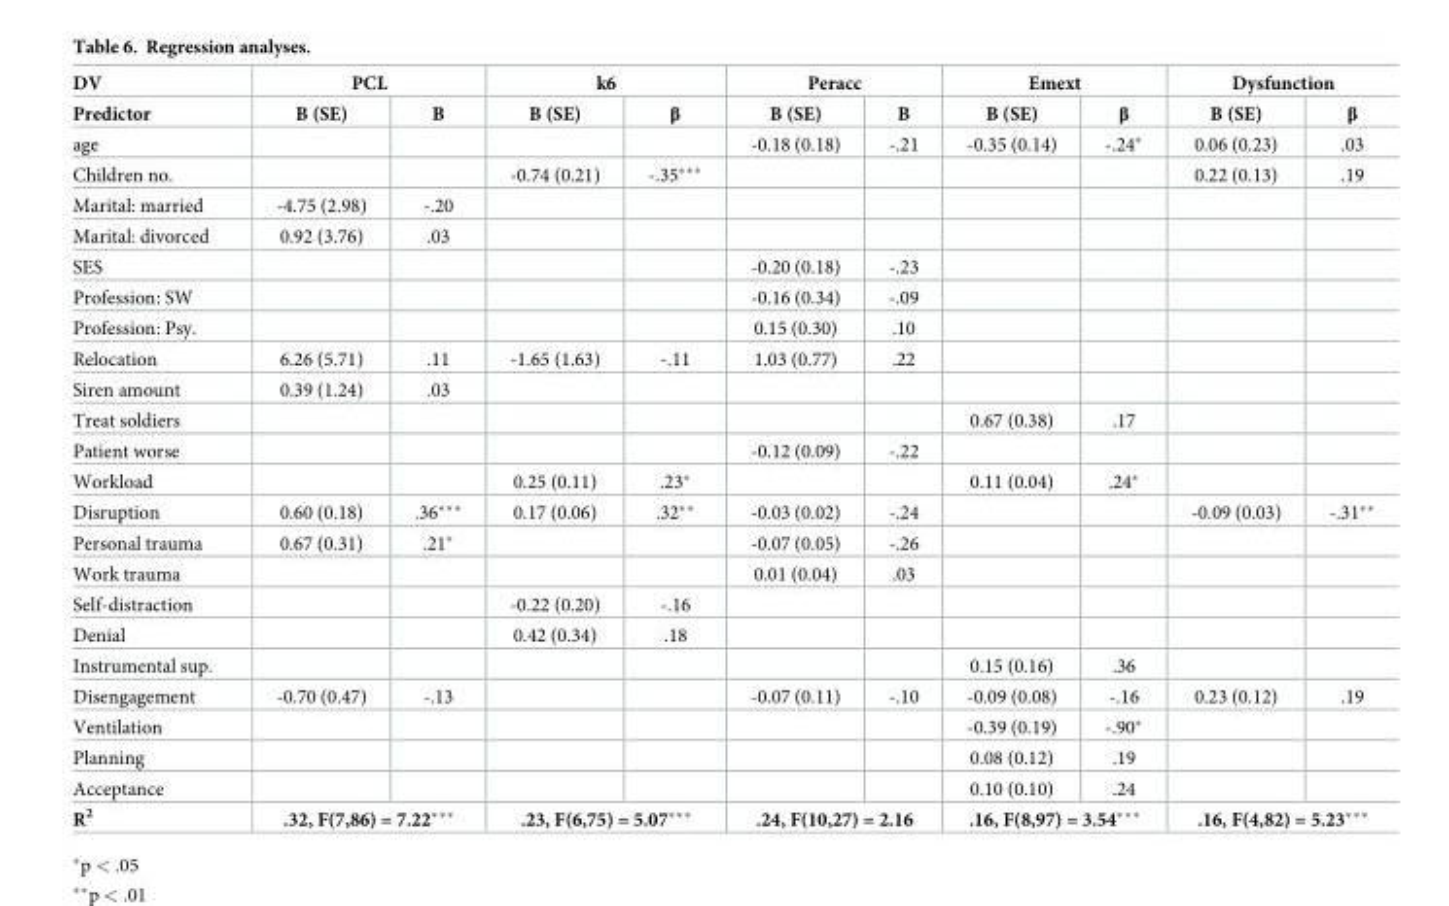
<table><thead><tr><td rowspan="2">DV Predictor</td><td colspan="2">PCL</td><td colspan="2">k6</td><td colspan="2">Peracc</td><td colspan="2">Emext</td><td colspan="2">Dysfunction</td></tr><tr><td>B (SE)</td><td>Β</td><td>B (SE)</td><td>β</td><td>B (SE)</td><td>Β</td><td>B (SE)</td><td>β</td><td>B (SE)</td><td>β</td></tr></thead><tbody><tr><td>age</td><td></td><td></td><td></td><td></td><td>-0.18 (0.18)</td><td>-.21</td><td>-0.35 (0.14)</td><td>-.24*</td><td>0.06 (0.23)</td><td>.03</td></tr><tr><td>Children no.</td><td></td><td></td><td>-0.74 (0.21)</td><td>-.35***</td><td></td><td></td><td></td><td></td><td>0.22 (0.13)</td><td>.19</td></tr><tr><td>Marital: married</td><td>-4.75 (2.98)</td><td>-.20</td><td></td><td></td><td></td><td></td><td></td><td></td><td></td><td></td></tr><tr><td>Marital: divorced</td><td>0.92 (3.76)</td><td>.03</td><td></td><td></td><td></td><td></td><td></td><td></td><td></td><td></td></tr><tr><td>SES</td><td></td><td></td><td></td><td></td><td>-0.20 (0.18)</td><td>-.23</td><td></td><td></td><td></td><td></td></tr><tr><td>Profession: SW</td><td></td><td></td><td></td><td></td><td>-0.16 (0.34)</td><td>-.09</td><td></td><td></td><td></td><td></td></tr><tr><td>Profession: Psy.</td><td></td><td></td><td></td><td></td><td>0.15 (0.30)</td><td>.10</td><td></td><td></td><td></td><td></td></tr><tr><td>Relocation</td><td>6.26 (5.71)</td><td>.11</td><td>-1.65 (1.63)</td><td>-.11</td><td>1.03 (0.77)</td><td>.22</td><td></td><td></td><td></td><td></td></tr><tr><td>Siren amount</td><td>0.39 (1.24)</td><td>.03</td><td></td><td></td><td></td><td></td><td></td><td></td><td></td><td></td></tr><tr><td>Treat soldiers</td><td></td><td></td><td></td><td></td><td></td><td></td><td>0.67 (0.38)</td><td>.17</td><td></td><td></td></tr><tr><td>Patient worse</td><td></td><td></td><td></td><td></td><td>-0.12 (0.09)</td><td>-.22</td><td></td><td></td><td></td><td></td></tr><tr><td>Workload</td><td></td><td></td><td>0.25 (0.11)</td><td>.23*</td><td></td><td></td><td>0.11 (0.04)</td><td>.24*</td><td></td><td></td></tr><tr><td>Disruption</td><td>0.60 (0.18)</td><td>.36***</td><td>0.17 (0.06)</td><td>.32**</td><td>-0.03 (0.02)</td><td>-.24</td><td></td><td></td><td>-0.09 (0.03)</td><td>-.31**</td></tr><tr><td>Personal trauma</td><td>0.67 (0.31)</td><td>.21*</td><td></td><td></td><td>-0.07 (0.05)</td><td>-.26</td><td></td><td></td><td></td><td></td></tr><tr><td>Work trauma</td><td></td><td></td><td></td><td></td><td>0.01 (0.04)</td><td>.03</td><td></td><td></td><td></td><td></td></tr><tr><td>Self-distraction</td><td></td><td></td><td>-0.22 (0.20)</td><td>-.16</td><td></td><td></td><td></td><td></td><td></td><td></td></tr><tr><td>Denial</td><td></td><td></td><td>0.42 (0.34)</td><td>.18</td><td></td><td></td><td></td><td></td><td></td><td></td></tr><tr><td>Instrumental sup.</td><td></td><td></td><td></td><td></td><td></td><td></td><td>0.15 (0.16)</td><td>.36</td><td></td><td></td></tr><tr><td>Disengagement</td><td>-0.70 (0.47)</td><td>-.13</td><td></td><td></td><td>-0.07 (0.11)</td><td>-.10</td><td>-0.09 (0.08)</td><td>-.16</td><td>0.23 (0.12)</td><td>.19</td></tr><tr><td>Ventilation</td><td></td><td></td><td></td><td></td><td></td><td></td><td>-0.39 (0.19)</td><td>-.90*</td><td></td><td></td></tr><tr><td>Planning</td><td></td><td></td><td></td><td></td><td></td><td></td><td>0.08 (0.12)</td><td>.19</td><td></td><td></td></tr><tr><td>Acceptance</td><td></td><td></td><td></td><td></td><td></td><td></td><td>0.10 (0.10)</td><td>.24</td><td></td><td></td></tr><tr><td>R<sup>2</sup></td><td colspan="2">.32, F(7,86) = 7.22***</td><td colspan="2">.23, F(6,75) = 5.07***</td><td colspan="2">.24, F(10,27) = 2.16</td><td colspan="2">.16, F(8,97) = 3.54***</td><td colspan="2">.16, F(4,82) = 5.23***</td></tr></tbody></table>